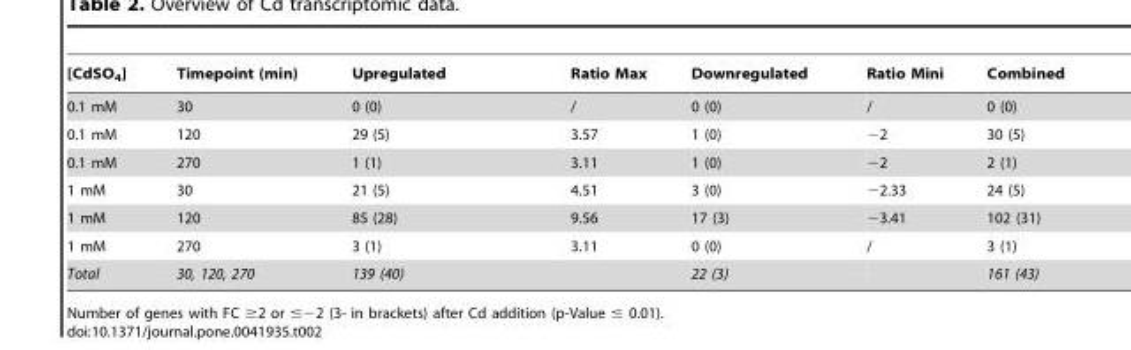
<table><thead><tr><td>[CdSO<sub>4</sub>]</td><td>Timepoint (min)</td><td>Upregulated</td><td>Ratio Max</td><td>Downregulated</td><td>Ratio Mini</td><td>Combined</td></tr></thead><tbody><tr><td>0.1 mM</td><td>30</td><td>0 (0)</td><td>/</td><td>0 (0)</td><td>/</td><td>0 (0)</td></tr><tr><td>0.1 mM</td><td>120</td><td>29 (5)</td><td>3.57</td><td>1 (0)</td><td>−2</td><td>30 (5)</td></tr><tr><td>0.1 mM</td><td>270</td><td>1 (1)</td><td>3.11</td><td>1 (0)</td><td>−2</td><td>2 (1)</td></tr><tr><td>1 mM</td><td>30</td><td>21 (5)</td><td>4.51</td><td>3 (0)</td><td>−2.33</td><td>24 (5)</td></tr><tr><td>1 mM</td><td>120</td><td>85 (28)</td><td>9.56</td><td>17 (3)</td><td>−3.41</td><td>102 (31)</td></tr><tr><td>1 mM</td><td>270</td><td>3 (1)</td><td>3.11</td><td>0 (0)</td><td>/</td><td>3 (1)</td></tr><tr><td>Total</td><td>30, 120, 270</td><td>139 (40)</td><td></td><td>22 (3)</td><td></td><td>161 (43)</td></tr></tbody></table>